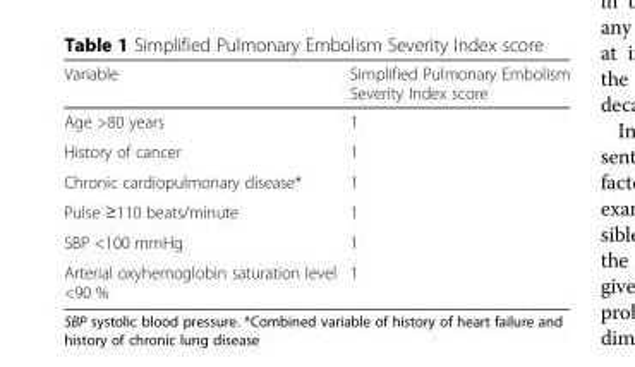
<table><thead><tr><td>Variable</td><td>Simplified Pulmonary Embolism Severity Index score</td></tr></thead><tbody><tr><td>Age &gt;80 years</td><td>1</td></tr><tr><td>History of cancer</td><td>1</td></tr><tr><td>Chronic cardiopulmonary disease*</td><td>1</td></tr><tr><td>Pulse ≥110 beats/minute</td><td>1</td></tr><tr><td>SBP &lt;100 mmHg</td><td>1</td></tr><tr><td>Arterial oxyhemoglobin saturation level &lt;90 %</td><td>1</td></tr></tbody></table>